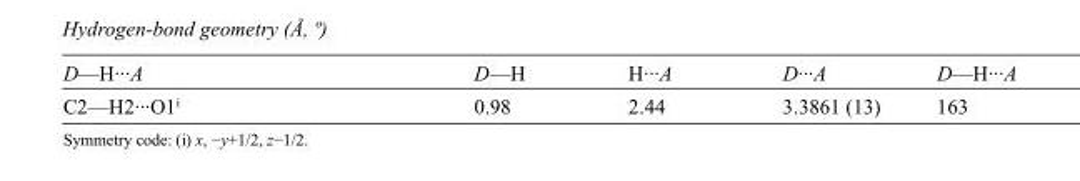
<table><tbody><tr><td>D—H···A</td><td>D—H</td><td>H···A</td><td>D···A</td><td>D—H···A</td></tr><tr><td>C2—H2···O1<sup>i</sup></td><td>0.98</td><td>2.44</td><td>3.3861 (13)</td><td>163</td></tr></tbody></table>